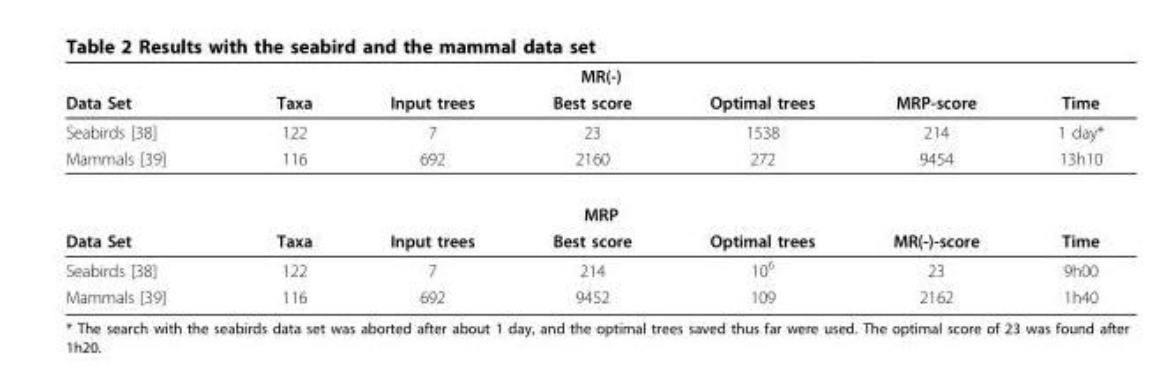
<table><thead><tr><td colspan="7">MR(-)</td></tr><tr><td>Data Set</td><td>Taxa</td><td>Input trees</td><td>Best score</td><td>Optimal trees</td><td>MRP-score</td><td>Time</td></tr></thead><tbody><tr><td>Seabirds [38]</td><td>122</td><td>7</td><td>23</td><td>1538</td><td>214</td><td>1 day*</td></tr><tr><td>Mammals [39]</td><td>116</td><td>692</td><td>2160</td><td>272</td><td>9454</td><td>13h10</td></tr><tr><td colspan="7">MRP</td></tr><tr><td>Data Set</td><td>Taxa</td><td>Input trees</td><td>Best score</td><td>Optimal trees</td><td>MR(-)-score</td><td>Time</td></tr><tr><td>Seabirds [38]</td><td>122</td><td>7</td><td>214</td><td>10<sup>6</sup></td><td>23</td><td>9h00</td></tr><tr><td>Mammals [39]</td><td>116</td><td>692</td><td>9452</td><td>109</td><td>2162</td><td>1h40</td></tr></tbody></table>